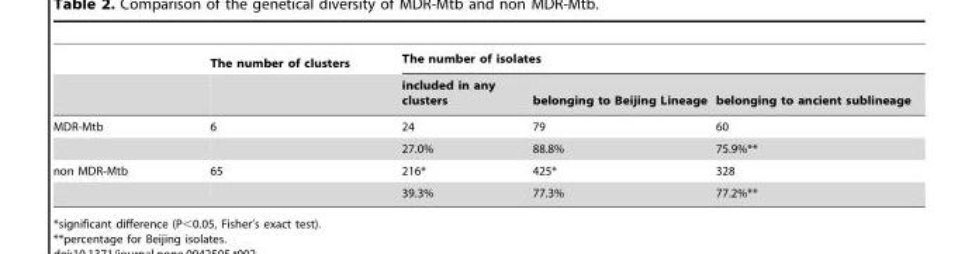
<table><thead><tr><td rowspan="2"></td><td rowspan="2">The number of clusters</td><td colspan="3">The number of isolates</td></tr><tr><td>included in any clusters</td><td>belonging to Beijing Lineage</td><td>belonging to ancient sublineage</td></tr></thead><tbody><tr><td rowspan="2">MDR-Mtb</td><td>6</td><td>24</td><td>79</td><td>60</td></tr><tr><td></td><td>27.0%</td><td>88.8%</td><td>75.9%**</td></tr><tr><td rowspan="2">non MDR-Mtb</td><td>65</td><td>216*</td><td>425*</td><td>328</td></tr><tr><td></td><td>39.3%</td><td>77.3%</td><td>77.2%**</td></tr></tbody></table>